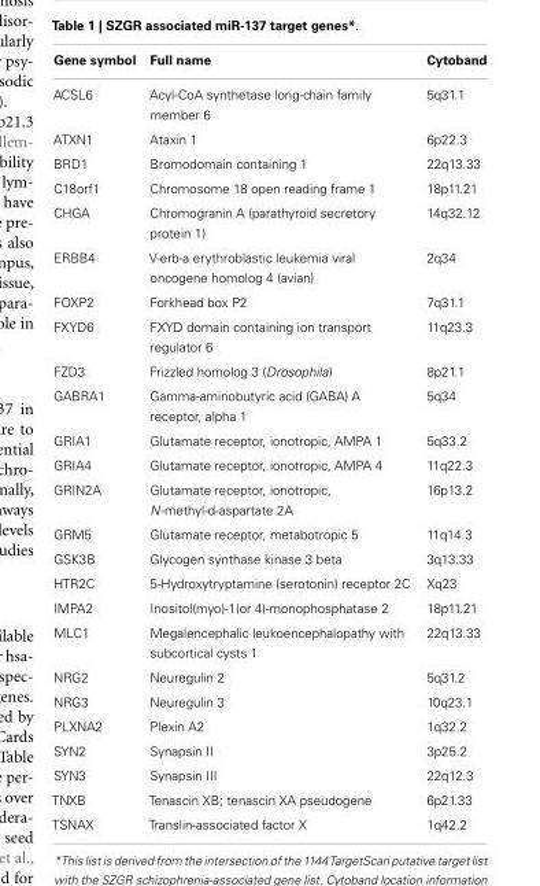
<table><thead><tr><td>Gene symbol</td><td>Full name</td><td>Cytoband</td></tr></thead><tbody><tr><td>ACSL6</td><td>Acyl-CoA synthetase long-chain family member 6</td><td>5q31.1</td></tr><tr><td>ATXN1</td><td>Ataxin 1</td><td>6p22.3</td></tr><tr><td>BRD1</td><td>Bromodomain containing 1</td><td>22q13.33</td></tr><tr><td>C18orf1</td><td>Chromosome 18 open reading frame 1</td><td>18p11.21</td></tr><tr><td>CHGA</td><td>Chromogranin A (parathyroid secretory protein 1)</td><td>14q32.12</td></tr><tr><td>ERBB4</td><td>V-erb-a erythroblastic leukemia viral oncogene homolog 4 (avian)</td><td>2q34</td></tr><tr><td>FOXP2</td><td>Forkhead box P2</td><td>7q31.1</td></tr><tr><td>FXYD6</td><td>FXYD domain containing ion transport regulator 6</td><td>11q23.3</td></tr><tr><td>FZD3</td><td>Frizzled homolog 3 (Drosophila)</td><td>8p21.1</td></tr><tr><td>GABRA1</td><td>Gamma-aminobutyric acid (GABA) A receptor, alpha 1</td><td>5q34</td></tr><tr><td>GRIA1</td><td>Glutamate receptor, ionotropic, AMPA 1</td><td>5q33.2</td></tr><tr><td>GRIA4</td><td>Glutamate receptor, ionotropic, AMPA 4</td><td>11q22.3</td></tr><tr><td>GRIN2A</td><td>Glutamate receptor, ionotropic, N-methyl-d-aspartate 2A</td><td>16p13.2</td></tr><tr><td>GRM5</td><td>Glutamate receptor, metabotropic 5</td><td>11q14.3</td></tr><tr><td>GSK3B</td><td>Glycogen synthase kinase 3 beta</td><td>3q13.33</td></tr><tr><td>HTR2C</td><td>5-Hydroxytryptamine (serotonin) receptor 2C</td><td>Xq23</td></tr><tr><td>IMPA2</td><td>Inositol(myo)-1(or 4)-monophosphatase 2</td><td>18p11.21</td></tr><tr><td>MLC1</td><td>Megalencephalic leukoencephalopathy with subcortical cysts 1</td><td>22q13.33</td></tr><tr><td>NRG2</td><td>Neuregulin 2</td><td>5q31.2</td></tr><tr><td>NRG3</td><td>Neuregulin 3</td><td>10q23.1</td></tr><tr><td>PLXNA2</td><td>Plexin A2</td><td>1q32.2</td></tr><tr><td>SYN2</td><td>Synapsin II</td><td>3p25.2</td></tr><tr><td>SYN3</td><td>Synapsin III</td><td>22q12.3</td></tr><tr><td>TNXB</td><td>Tenascin XB; tenascin XA pseudogene</td><td>6p21.33</td></tr><tr><td>TSNAX</td><td>Translin-associated factor X</td><td>1q42.2</td></tr></tbody></table>